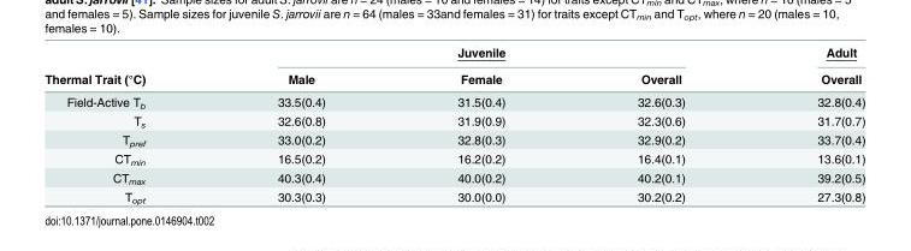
<table><thead><tr><td rowspan="2">Thermal Trait (°C)</td><td colspan="3">Juvenile</td><td rowspan="2">Adult Overall</td></tr><tr><td>Male</td><td>Female</td><td>Overall</td></tr></thead><tbody><tr><td>Field-Active T<sub>b</sub></td><td>33.5(0.4)</td><td>31.5(0.4)</td><td>32.6(0.3)</td><td>32.8(0.4)</td></tr><tr><td>T<sub>s</sub></td><td>32.6(0.8)</td><td>31.9(0.9)</td><td>32.3(0.6)</td><td>31.7(0.7)</td></tr><tr><td>T<sub>pref</sub></td><td>33.0(0.2)</td><td>32.8(0.3)</td><td>32.9(0.2)</td><td>33.7(0.4)</td></tr><tr><td>CT<sub>min</sub></td><td>16.5(0.2)</td><td>16.2(0.2)</td><td>16.4(0.1)</td><td>13.6(0.1)</td></tr><tr><td>CT<sub>max</sub></td><td>40.3(0.4)</td><td>40.0(0.2)</td><td>40.2(0.1)</td><td>39.2(0.5)</td></tr><tr><td>T<sub>opt</sub></td><td>30.3(0.3)</td><td>30.0(0.0)</td><td>30.2(0.2)</td><td>27.3(0.8)</td></tr></tbody></table>